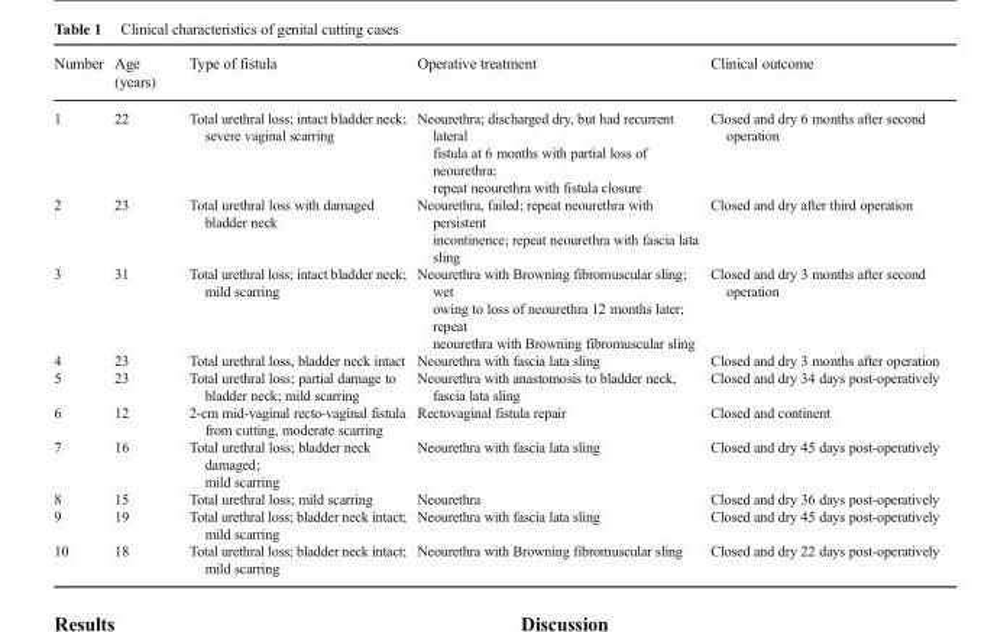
<table><thead><tr><td>Number</td><td>Age (years)</td><td>Type of fistula</td><td>Operative treatment</td><td>Clinical outcome</td></tr></thead><tbody><tr><td>1</td><td>22</td><td>Total urethral loss; intact bladder neck; severe vaginal scarring</td><td>Neourethra; discharged dry, but had recurrent lateral fistula at 6 months with partial loss of neourethra; repeat neourethra with fistula closure</td><td>Closed and dry 6 months after second operation</td></tr><tr><td>2</td><td>23</td><td>Total urethral loss with damaged bladder neck</td><td>Neourethra, failed; repeat neourethra with persistent incontinence; repeat neourethra with fascia lata sling</td><td>Closed and dry after third operation</td></tr><tr><td>3</td><td>31</td><td>Total urethral loss; intact bladder neck; mild scarring</td><td>Neourethra with Browning fibromuscular sling; wet owing to loss of neourethra 12 months later; repeat neourethra with Browning fibromuscular sling</td><td>Closed and dry 3 months after second operation</td></tr><tr><td>4</td><td>23</td><td>Total urethral loss, bladder neck intact</td><td>Neourethra with fascia lata sling</td><td>Closed and dry 3 months after operation</td></tr><tr><td>5</td><td>23</td><td>Total urethral loss; partial damage to bladder neck; mild scarring</td><td>Neourethra with anastomosis to bladder neck, fascia lata sling</td><td>Closed and dry 34 days post-operatively</td></tr><tr><td>6</td><td>12</td><td>2-cm mid-vaginal recto-vaginal fistula from cutting, moderate scarring</td><td>Rectovaginal fistula repair</td><td>Closed and continent</td></tr><tr><td>7</td><td>16</td><td>Total urethral loss; bladder neck damaged; mild scarring</td><td>Neourethra with fascia lata sling</td><td>Closed and dry 45 days post-operatively</td></tr><tr><td>8</td><td>15</td><td>Total urethral loss; mild scarring</td><td>Neourethra</td><td>Closed and dry 36 days post-operatively</td></tr><tr><td>9</td><td>19</td><td>Total urethral loss; bladder neck intact; mild scarring</td><td>Neourethra with fascia lata sling</td><td>Closed and dry 45 days post-operatively</td></tr><tr><td>10</td><td>18</td><td>Total urethral loss; bladder neck intact; mild scarring</td><td>Neourethra with Browning fibromuscular sling</td><td>Closed and dry 22 days post-operatively</td></tr></tbody></table>